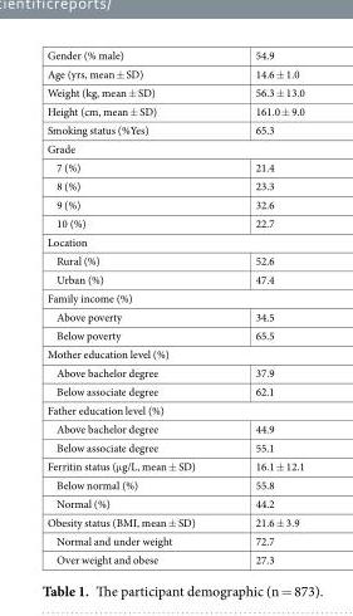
<table><tbody><tr><td>Gender (% male)</td><td>54.9</td></tr><tr><td>Age (yrs, mean ± SD)</td><td>14.6 ± 1.0</td></tr><tr><td>Weight (kg, mean ± SD)</td><td>56.3 ± 13.0</td></tr><tr><td>Height (cm, mean ± SD)</td><td>161.0 ± 9.0</td></tr><tr><td>Smoking status (%Yes)</td><td>65.3</td></tr><tr><td colspan="2">Grade</td></tr><tr><td>7 (%)</td><td>21.4</td></tr><tr><td>8 (%)</td><td>23.3</td></tr><tr><td>9 (%)</td><td>32.6</td></tr><tr><td>10 (%)</td><td>22.7</td></tr><tr><td colspan="2">Location</td></tr><tr><td>Rural (%)</td><td>52.6</td></tr><tr><td>Urban (%)</td><td>47.4</td></tr><tr><td colspan="2">Family income (%)</td></tr><tr><td>Above poverty</td><td>34.5</td></tr><tr><td>Below poverty</td><td>65.5</td></tr><tr><td colspan="2">Mother education level (%)</td></tr><tr><td>Above bachelor degree</td><td>37.9</td></tr><tr><td>Below associate degree</td><td>62.1</td></tr><tr><td colspan="2">Father education level (%)</td></tr><tr><td>Above bachelor degree</td><td>44.9</td></tr><tr><td>Below associate degree</td><td>55.1</td></tr><tr><td>Ferritin status (μg/L, mean ± SD)</td><td>16.1 ± 12.1</td></tr><tr><td>Below normal (%)</td><td>55.8</td></tr><tr><td>Normal (%)</td><td>44.2</td></tr><tr><td>Obesity status (BMI, mean ± SD)</td><td>21.6 ± 3.9</td></tr><tr><td>Normal and under weight</td><td>72.7</td></tr><tr><td>Over weight and obese</td><td>27.3</td></tr></tbody></table>